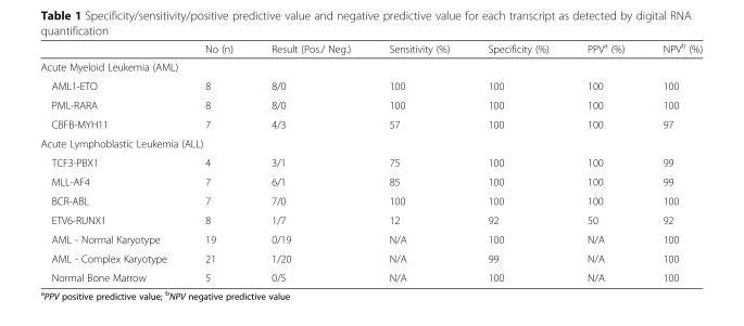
<table><thead><tr><td></td><td>No (n)</td><td>Result (Pos./ Neg.)</td><td>Sensitivity (%)</td><td>Specificity (%)</td><td>PPV<sup>a</sup> (%)</td><td>NPV<sup>b</sup> (%)</td></tr></thead><tbody><tr><td colspan="7">Acute Myeloid Leukemia (AML)</td></tr><tr><td>AML1-ETO</td><td>8</td><td>8/0</td><td>100</td><td>100</td><td>100</td><td>100</td></tr><tr><td>PML-RARA</td><td>8</td><td>8/0</td><td>100</td><td>100</td><td>100</td><td>100</td></tr><tr><td>CBFB-MYH11</td><td>7</td><td>4/3</td><td>57</td><td>100</td><td>100</td><td>97</td></tr><tr><td colspan="7">Acute Lymphoblastic Leukemia (ALL)</td></tr><tr><td>TCF3-PBX1</td><td>4</td><td>3/1</td><td>75</td><td>100</td><td>100</td><td>99</td></tr><tr><td>MLL-AF4</td><td>7</td><td>6/1</td><td>85</td><td>100</td><td>100</td><td>99</td></tr><tr><td>BCR-ABL</td><td>7</td><td>7/0</td><td>100</td><td>100</td><td>100</td><td>100</td></tr><tr><td>ETV6-RUNX1</td><td>8</td><td>1/7</td><td>12</td><td>92</td><td>50</td><td>92</td></tr><tr><td>AML - Normal Karyotype</td><td>19</td><td>0/19</td><td>N/A</td><td>100</td><td>N/A</td><td>100</td></tr><tr><td>AML - Complex Karyotype</td><td>21</td><td>1/20</td><td>N/A</td><td>99</td><td>N/A</td><td>100</td></tr><tr><td>Normal Bone Marrow</td><td>5</td><td>0/5</td><td>N/A</td><td>100</td><td>N/A</td><td>100</td></tr></tbody></table>